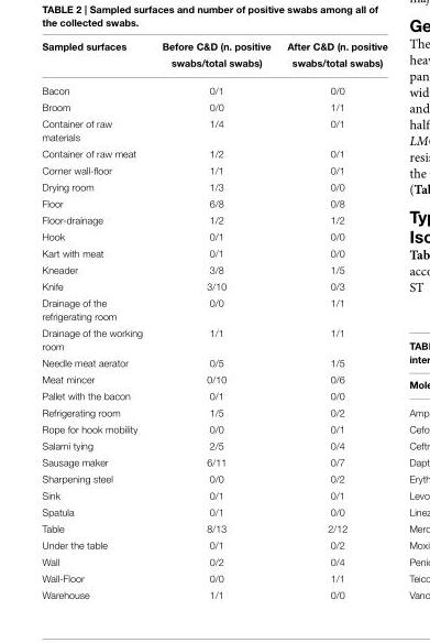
<table><thead><tr><td rowspan="2">Sampled surfaces</td><td rowspan="2">Before C&amp;D (n. positive swabs/total swabs)</td><td rowspan="2">After C&amp;D (n. positive swabs/total swabs)</td></tr><tr></tr></thead><tbody><tr><td>Bacon</td><td>0/1</td><td>0/0</td></tr><tr><td>Broom</td><td>0/0</td><td>1/1</td></tr><tr><td>Container of raw materials</td><td>1/4</td><td>0/1</td></tr><tr><td>Container of raw meat</td><td>1/2</td><td>0/1</td></tr><tr><td>Corner wall-floor</td><td>1/1</td><td>0/1</td></tr><tr><td>Drying room</td><td>1/3</td><td>0/0</td></tr><tr><td>Floor</td><td>6/8</td><td>0/8</td></tr><tr><td>Floor-drainage</td><td>1/2</td><td>1/2</td></tr><tr><td>Hook</td><td>0/1</td><td>0/0</td></tr><tr><td>Kart with meat</td><td>0/1</td><td>0/0</td></tr><tr><td>Kneader</td><td>3/8</td><td>1/5</td></tr><tr><td>Knife</td><td>3/10</td><td>0/3</td></tr><tr><td>Drainage of the refrigerating room</td><td>0/0</td><td>1/1</td></tr><tr><td>Drainage of the working room</td><td>1/1</td><td>1/1</td></tr><tr><td>Needle meat aerator</td><td>0/5</td><td>1/5</td></tr><tr><td>Meat mincer</td><td>0/10</td><td>0/6</td></tr><tr><td>Pallet with the bacon</td><td>0/1</td><td>0/0</td></tr><tr><td>Refrigerating room</td><td>1/5</td><td>0/2</td></tr><tr><td>Rope for hook mobility</td><td>0/0</td><td>0/1</td></tr><tr><td>Salami tying</td><td>2/5</td><td>0/4</td></tr><tr><td>Sausage maker</td><td>6/11</td><td>0/7</td></tr><tr><td>Sharpening steel</td><td>0/0</td><td>0/2</td></tr><tr><td>Sink</td><td>0/1</td><td>0/1</td></tr><tr><td>Spatula</td><td>0/1</td><td>0/0</td></tr><tr><td>Table</td><td>8/13</td><td>2/12</td></tr><tr><td>Under the table</td><td>0/1</td><td>0/2</td></tr><tr><td>Wall</td><td>0/2</td><td>0/4</td></tr><tr><td>Wall-Floor</td><td>0/0</td><td>1/1</td></tr><tr><td>Warehouse</td><td>1/1</td><td>0/0</td></tr></tbody></table>